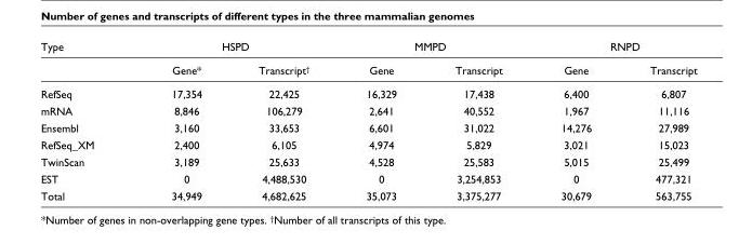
<table><thead><tr><td rowspan="2">Type</td><td colspan="2">HSPD</td><td colspan="2">MMPD</td><td colspan="2">RNPD</td></tr><tr><td>Gene*</td><td>Transcript†</td><td>Gene</td><td>Transcript</td><td>Gene</td><td>Transcript</td></tr></thead><tbody><tr><td>RefSeq</td><td>17,354</td><td>22,425</td><td>16,329</td><td>17,438</td><td>6,400</td><td>6,807</td></tr><tr><td>mRNA</td><td>8,846</td><td>106,279</td><td>2,641</td><td>40,552</td><td>1,967</td><td>11,116</td></tr><tr><td>Ensembl</td><td>3,160</td><td>33,653</td><td>6,601</td><td>31,022</td><td>14,276</td><td>27,989</td></tr><tr><td>RefSeq_XM</td><td>2,400</td><td>6,105</td><td>4,974</td><td>5,829</td><td>3,021</td><td>15,023</td></tr><tr><td>TwinScan</td><td>3,189</td><td>25,633</td><td>4,528</td><td>25,583</td><td>5,015</td><td>25,499</td></tr><tr><td>EST</td><td>0</td><td>4,488,530</td><td>0</td><td>3,254,853</td><td>0</td><td>477,321</td></tr><tr><td>Total</td><td>34,949</td><td>4,682,625</td><td>35,073</td><td>3,375,277</td><td>30,679</td><td>563,755</td></tr></tbody></table>